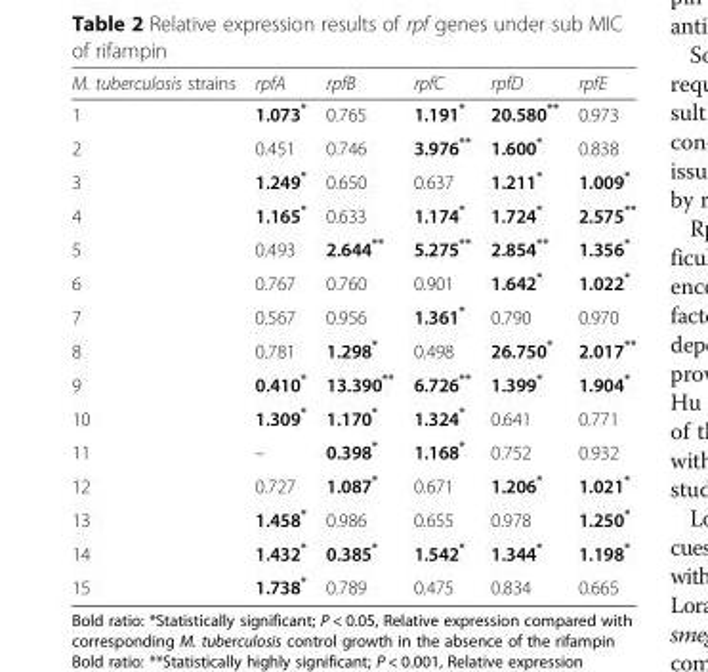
<table><thead><tr><td>M. tuberculosis strains</td><td>rpfA</td><td>rpfB</td><td>rpfC</td><td>rpfD</td><td>rpfE</td></tr></thead><tbody><tr><td>1</td><td>1.073*</td><td>0.765</td><td>1.191*</td><td>20.580**</td><td>0.973</td></tr><tr><td>2</td><td>0.451</td><td>0.746</td><td>3.976**</td><td>1.600*</td><td>0.838</td></tr><tr><td>3</td><td>1.249*</td><td>0.650</td><td>0.637</td><td>1.211*</td><td>1.009*</td></tr><tr><td>4</td><td>1.165*</td><td>0.633</td><td>1.174*</td><td>1.724*</td><td>2.575**</td></tr><tr><td>5</td><td>0.493</td><td>2.644**</td><td>5.275**</td><td>2.854**</td><td>1.356*</td></tr><tr><td>6</td><td>0.767</td><td>0.760</td><td>0.901</td><td>1.642*</td><td>1.022*</td></tr><tr><td>7</td><td>0.567</td><td>0.956</td><td>1.361*</td><td>0.790</td><td>0.970</td></tr><tr><td>8</td><td>0.781</td><td>1.298*</td><td>0.498</td><td>26.750*</td><td>2.017**</td></tr><tr><td>9</td><td>0.410*</td><td>13.390**</td><td>6.726**</td><td>1.399*</td><td>1.904*</td></tr><tr><td>10</td><td>1.309*</td><td>1.170*</td><td>1.324*</td><td>0.641</td><td>0.771</td></tr><tr><td>11</td><td>–</td><td>0.398*</td><td>1.168*</td><td>0.752</td><td>0.932</td></tr><tr><td>12</td><td>0.727</td><td>1.087*</td><td>0.671</td><td>1.206*</td><td>1.021*</td></tr><tr><td>13</td><td>1.458*</td><td>0.986</td><td>0.655</td><td>0.978</td><td>1.250*</td></tr><tr><td>14</td><td>1.432*</td><td>0.385*</td><td>1.542*</td><td>1.344*</td><td>1.198*</td></tr><tr><td>15</td><td>1.738*</td><td>0.789</td><td>0.475</td><td>0.834</td><td>0.665</td></tr></tbody></table>